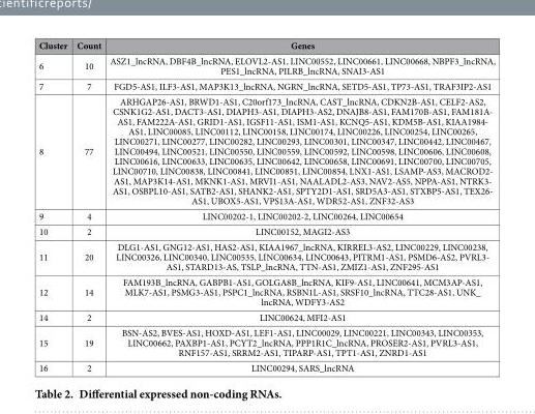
<table><thead><tr><td>Cluster</td><td>Count</td><td>Genes</td></tr></thead><tbody><tr><td>6</td><td>10</td><td>ASZ1_lncRNA, DBF4B_lncRNA, ELOVL2-AS1, LINC00552, LINC00661, LINC00668, NBPF3_lncRNA, PES1_lncRNA, PILRB_lncRNA, SNAI3-AS1</td></tr><tr><td>7</td><td>7</td><td>FGD5-AS1, ILF3-AS1, MAP3K13_lncRNA, NGRN_lncRNA, SETD5-AS1, TP73-AS1, TRAF3IP2-AS1</td></tr><tr><td>8</td><td>77</td><td>ARHGAP26-AS1, BRWD1-AS1, C20orf173_lncRNA, CAST_lncRNA, CDKN2B-AS1, CELF2-AS2, CSNK1G2-AS1, DACT3-AS1, DIAPH3-AS1, DIAPH3-AS2, DNAJB8-AS1, FAM170B-AS1, FAM181A- AS1, FAM222A-AS1, GRID1-AS1, IGSF11-AS1, ISM1-AS1, KCNQ5-AS1, KDM5B-AS1, KIAA1984- AS1, LINC00085, LINC00112, LINC00158, LINC00174, LINC00226, LINC00254, LINC00265, LINC00271, LINC00277, LINC00282, LINC00293, LINC00301, LINC00347, LINC00442, LINC00467, LINC00494, LINC00521, LINC00550, LINC00559, LINC00592, LINC00598, LINC00606, LINC00608, LINC00616, LINC00633, LINC00635, LINC00642, LINC00658, LINC00691, LINC00700, LINC00705, LINC00710, LINC00838, LINC00841, LINC00851, LINC00854, LNX1-AS1, LSAMP-AS3, MACROD2- AS1, MAP3K14-AS1, MKNK1-AS1, MRVI1-AS1, NAALADL2-AS3, NAV2-AS5, NPPA-AS1, NTRK3- AS1, OSBPL10-AS1, SATB2-AS1, SHANK2-AS1, SPTY2D1-AS1, SRD5A3-AS1, STXBP5-AS1, TEX26- AS1, UBOX5-AS1, VPS13A-AS1, WDR52-AS1, ZNF32-AS3</td></tr><tr><td>9</td><td>4</td><td>LINC00202-1, LINC00202-2, LINC00264, LINC00654</td></tr><tr><td>10</td><td>2</td><td>LINC00152, MAGI2-AS3</td></tr><tr><td>11</td><td>20</td><td>DLG1-AS1, GNG12-AS1, HAS2-AS1, KIAA1967_lncRNA, KIRREL3-AS2, LINC00229, LINC00238, LINC00326, LINC00340, LINC00535, LINC00634, LINC00643, PITRM1-AS1, PSMD6-AS2, PVRL3- AS1, STARD13-AS, TSLP_lncRNA, TTN-AS1, ZMIZ1-AS1, ZNF295-AS1</td></tr><tr><td>12</td><td>14</td><td>FAM193B_lncRNA, GABPB1-AS1, GOLGA8B_lncRNA, KIF9-AS1, LINC00641, MCM3AP-AS1, MLK7-AS1, PSMG3-AS1, PSPC1_lncRNA, RSBN1L-AS1, SRSF10_lncRNA, TTC28-AS1, UNK_ lncRNA, WDFY3-AS2</td></tr><tr><td>14</td><td>2</td><td>LINC00624, MFI2-AS1</td></tr><tr><td>15</td><td>19</td><td>BSN-AS2, BVES-AS1, HOXD-AS1, LEF1-AS1, LINC00029, LINC00221, LINC00343, LINC00353, LINC00662, PAXBP1-AS1, PCYT2_lncRNA, PPP1R1C_lncRNA, PROSER2-AS1, PVRL3-AS1, RNF157-AS1, SRRM2-AS1, TIPARP-AS1, TPT1-AS1, ZNRD1-AS1</td></tr><tr><td>16</td><td>2</td><td>LINC00294, SARS_lncRNA</td></tr></tbody></table>